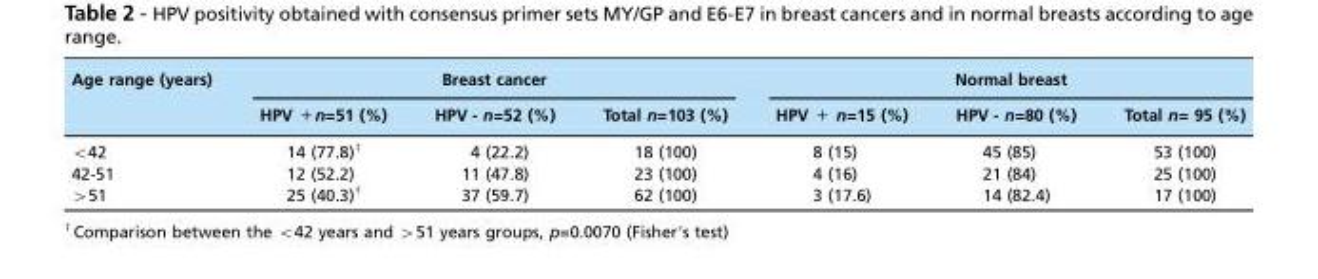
<table><thead><tr><td rowspan="2">Age range (years)</td><td colspan="3">Breast cancer</td><td colspan="3">Normal breast</td></tr><tr><td>HPV +n=51 (%)</td><td>HPV - n=52 (%)</td><td>Total n=103 (%)</td><td>HPV + n=15 (%)</td><td>HPV - n=80 (%)</td><td>Total n= 95 (%)</td></tr></thead><tbody><tr><td>&lt;42</td><td>14 (77.8)<sup>†</sup></td><td>4 (22.2)</td><td>18 (100)</td><td>8 (15)</td><td>45 (85)</td><td>53 (100)</td></tr><tr><td>42-51</td><td>12 (52.2)</td><td>11 (47.8)</td><td>23 (100)</td><td>4 (16)</td><td>21 (84)</td><td>25 (100)</td></tr><tr><td>&gt;51</td><td>25 (40.3)<sup>†</sup></td><td>37 (59.7)</td><td>62 (100)</td><td>3 (17.6)</td><td>14 (82.4)</td><td>17 (100)</td></tr></tbody></table>